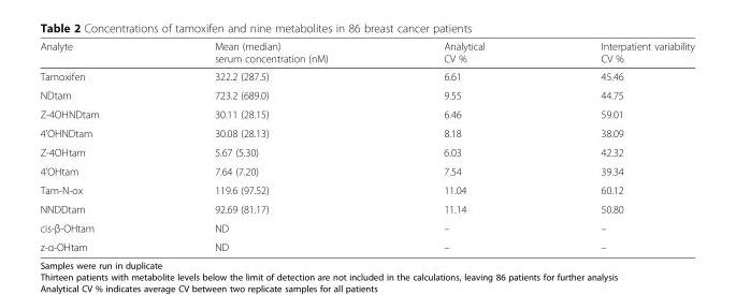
<table><thead><tr><td>Analyte</td><td>Mean (median) serum concentration (nM)</td><td>Analytical CV %</td><td>Interpatient variability CV %</td></tr></thead><tbody><tr><td>Tamoxifen</td><td>322.2 (287.5)</td><td>6.61</td><td>45.46</td></tr><tr><td>NDtam</td><td>723.2 (689.0)</td><td>9.55</td><td>44.75</td></tr><tr><td>Z-4OHNDtam</td><td>30.11 (28.15)</td><td>6.46</td><td>59.01</td></tr><tr><td>4&#x27;OHNDtam</td><td>30.08 (28.13)</td><td>8.18</td><td>38.09</td></tr><tr><td>Z-4OHtam</td><td>5.67 (5.30)</td><td>6.03</td><td>42.32</td></tr><tr><td>4&#x27;OHtam</td><td>7.64 (7.20)</td><td>7.54</td><td>39.34</td></tr><tr><td>Tam-N-ox</td><td>119.6 (97.52)</td><td>11.04</td><td>60.12</td></tr><tr><td>NNDDtam</td><td>92.69 (81.17)</td><td>11.14</td><td>50.80</td></tr><tr><td>cis-β-OHtam</td><td>ND</td><td>–</td><td>–</td></tr><tr><td>z-α-OHtam</td><td>ND</td><td>–</td><td>–</td></tr></tbody></table>